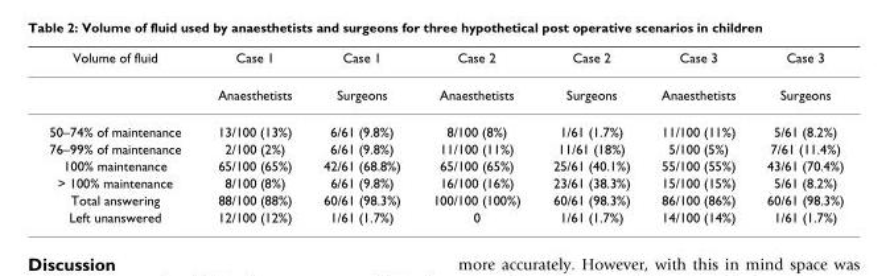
<table><thead><tr><td>Volume of fluid</td><td>Case 1</td><td>Case 1</td><td>Case 2</td><td>Case 2</td><td>Case 3</td><td>Case 3</td></tr></thead><tbody><tr><td></td><td>Anaesthetists</td><td>Surgeons</td><td>Anaesthetists</td><td>Surgeons</td><td>Anaesthetists</td><td>Surgeons</td></tr><tr><td>50–74% of maintenance</td><td>13/100 (13%)</td><td>6/61 (9.8%)</td><td>8/100 (8%)</td><td>1/61 (1.7%)</td><td>11/100 (11%)</td><td>5/61 (8.2%)</td></tr><tr><td>76–99% of maintenance</td><td>2/100 (2%)</td><td>6/61 (9.8%)</td><td>11/100 (11%)</td><td>11/61 (18%)</td><td>5/100 (5%)</td><td>7/61 (11.4%)</td></tr><tr><td>100% maintenance</td><td>65/100 (65%)</td><td>42/61 (68.8%)</td><td>65/100 (65%)</td><td>25/61 (40.1%)</td><td>55/100 (55%)</td><td>43/61 (70.4%)</td></tr><tr><td>&gt; 100% maintenance</td><td>8/100 (8%)</td><td>6/61 (9.8%)</td><td>16/100 (16%)</td><td>23/61 (38.3%)</td><td>15/100 (15%)</td><td>5/61 (8.2%)</td></tr><tr><td>Total answering</td><td>88/100 (88%)</td><td>60/61 (98.3%)</td><td>100/100 (100%)</td><td>60/61 (98.3%)</td><td>86/100 (86%)</td><td>60/61 (98.3%)</td></tr><tr><td>Left unanswered</td><td>12/100 (12%)</td><td>1/61 (1.7%)</td><td>0</td><td>1/61 (1.7%)</td><td>14/100 (14%)</td><td>1/61 (1.7%)</td></tr></tbody></table>